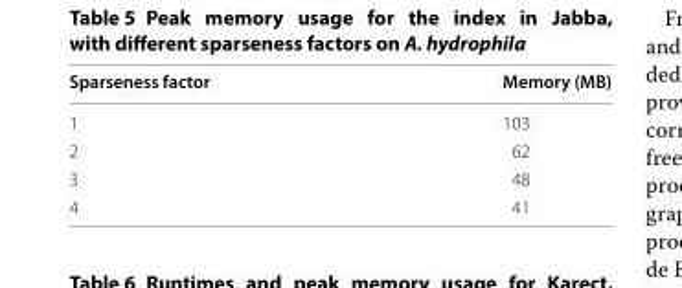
<table><thead><tr><td>Sparseness factor</td><td>Memory (MB)</td></tr></thead><tbody><tr><td>1</td><td>103</td></tr><tr><td>2</td><td>62</td></tr><tr><td>3</td><td>48</td></tr><tr><td>4</td><td>41</td></tr></tbody></table>